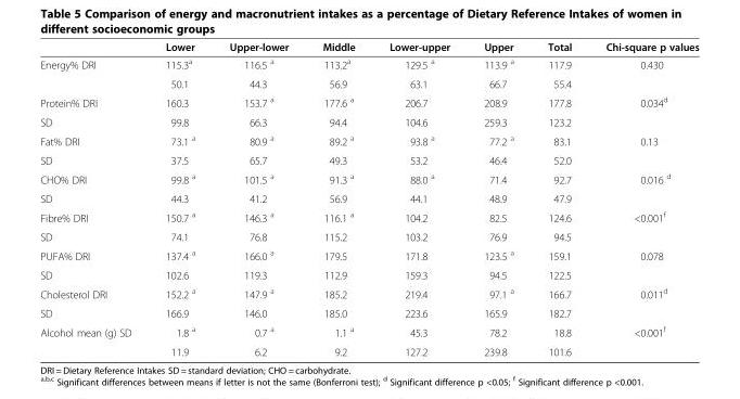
<table><thead><tr><td></td><td>Lower</td><td>Upper-lower</td><td>Middle</td><td>Lower-upper</td><td>Upper</td><td>Total</td><td>Chi-square p values</td></tr></thead><tbody><tr><td rowspan="2">Energy% DRI</td><td>115.3<sup>a</sup></td><td>116.5 <sup>a</sup></td><td>113.2<sup>a</sup></td><td>129.5 <sup>a</sup></td><td>113.9 <sup>a</sup></td><td>117.9</td><td>0.430</td></tr><tr><td>50.1</td><td>44.3</td><td>56.9</td><td>63.1</td><td>66.7</td><td>55.4</td><td></td></tr><tr><td>Protein% DRI</td><td>160.3</td><td>153.7 <sup>a</sup></td><td>177.6 <sup>a</sup></td><td>206.7</td><td>208.9</td><td>177.8</td><td>0.034<sup>d</sup></td></tr><tr><td>SD</td><td>99.8</td><td>66.3</td><td>94.4</td><td>104.6</td><td>259.3</td><td>123.2</td><td></td></tr><tr><td>Fat% DRI</td><td>73.1 <sup>a</sup></td><td>80.9 <sup>a</sup></td><td>89.2 <sup>a</sup></td><td>93.8 <sup>a</sup></td><td>77.2 <sup>a</sup></td><td>83.1</td><td>0.13</td></tr><tr><td>SD</td><td>37.5</td><td>65.7</td><td>49.3</td><td>53.2</td><td>46.4</td><td>52.0</td><td></td></tr><tr><td>CHO% DRI</td><td>99.8 <sup>a</sup></td><td>101.5 <sup>a</sup></td><td>91.3 <sup>a</sup></td><td>88.0 <sup>a</sup></td><td>71.4</td><td>92.7</td><td>0.016 <sup>d</sup></td></tr><tr><td>SD</td><td>44.3</td><td>41.2</td><td>56.9</td><td>44.1</td><td>48.9</td><td>47.9</td><td></td></tr><tr><td>Fibre% DRI</td><td>150.7 <sup>a</sup></td><td>146.3 <sup>a</sup></td><td>116.1 <sup>a</sup></td><td>104.2</td><td>82.5</td><td>124.6</td><td>&lt;0.001<sup>f</sup></td></tr><tr><td>SD</td><td>74.1</td><td>76.8</td><td>115.2</td><td>103.2</td><td>76.9</td><td>94.5</td><td></td></tr><tr><td>PUFA% DRI</td><td>137.4 <sup>a</sup></td><td>166.0 <sup>a</sup></td><td>179.5</td><td>171.8</td><td>123.5 <sup>a</sup></td><td>159.1</td><td>0.078</td></tr><tr><td>SD</td><td>102.6</td><td>119.3</td><td>112.9</td><td>159.3</td><td>94.5</td><td>122.5</td><td></td></tr><tr><td>Cholesterol DRI</td><td>152.2 <sup>a</sup></td><td>147.9 <sup>a</sup></td><td>185.2</td><td>219.4</td><td>97.1 <sup>a</sup></td><td>166.7</td><td>0.011<sup>d</sup></td></tr><tr><td>SD</td><td>166.9</td><td>146.0</td><td>185.0</td><td>223.6</td><td>165.9</td><td>182.7</td><td></td></tr><tr><td rowspan="2">Alcohol mean (g) SD</td><td>1.8 <sup>a</sup></td><td>0.7 <sup>a</sup></td><td>1.1 <sup>a</sup></td><td>45.3</td><td>78.2</td><td>18.8</td><td>&lt;0.001<sup>f</sup></td></tr><tr><td>11.9</td><td>6.2</td><td>9.2</td><td>127.2</td><td>239.8</td><td>101.6</td><td></td></tr></tbody></table>